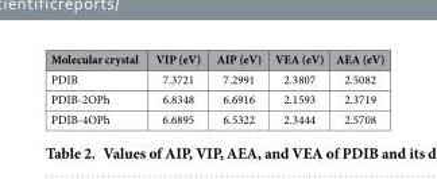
<table><thead><tr><td>Molecular crystal</td><td>VIP (eV)</td><td>AIP (eV)</td><td>VEA (eV)</td><td>AEA (eV)</td></tr></thead><tbody><tr><td>PDIB</td><td>7.3721</td><td>7.2991</td><td>2.3807</td><td>2.5082</td></tr><tr><td>PDIB-2OPh</td><td>6.8348</td><td>6.6916</td><td>2.1593</td><td>2.3719</td></tr><tr><td>PDIB-4OPh</td><td>6.6895</td><td>6.5322</td><td>2.3444</td><td>2.5708</td></tr></tbody></table>